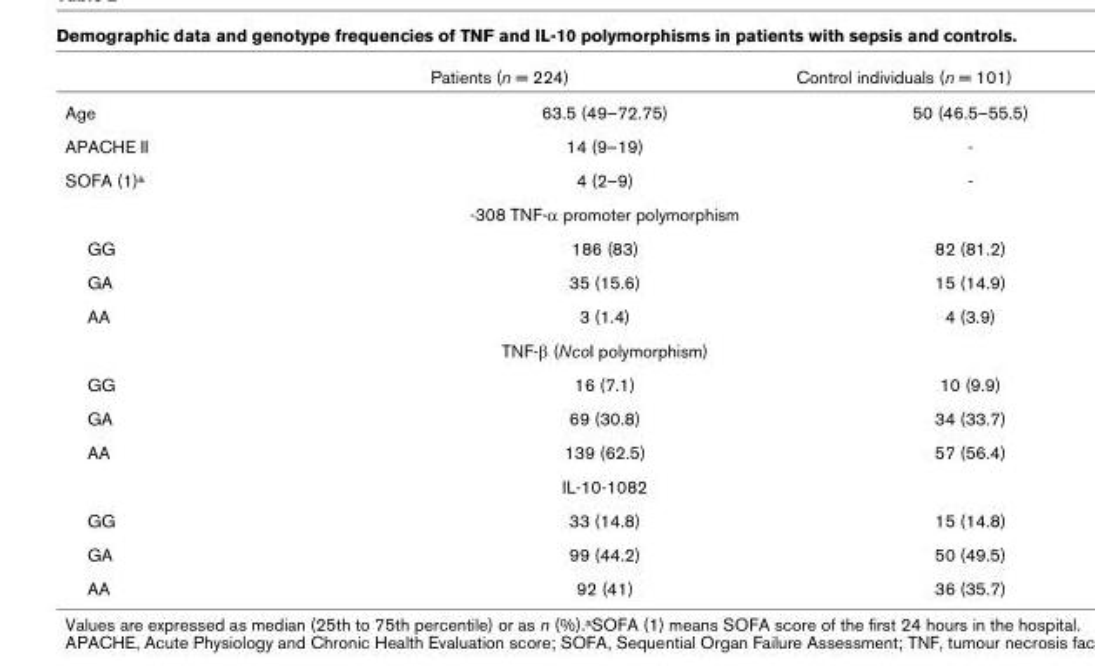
<table><thead><tr><td></td><td>Patients (n = 224)</td><td>Control individuals (n = 101)</td></tr></thead><tbody><tr><td>Age</td><td>63.5 (49–72.75)</td><td>50 (46.5–55.5)</td></tr><tr><td>APACHE II</td><td>14 (9–19)</td><td>-</td></tr><tr><td>SOFA (1)a</td><td>4 (2–9)</td><td>-</td></tr><tr><td colspan="3">-308 TNF-α promoter polymorphism</td></tr><tr><td>GG</td><td>186 (83)</td><td>82 (81.2)</td></tr><tr><td>GA</td><td>35 (15.6)</td><td>15 (14.9)</td></tr><tr><td>AA</td><td>3 (1.4)</td><td>4 (3.9)</td></tr><tr><td colspan="3">TNF-β (NcoI polymorphism)</td></tr><tr><td>GG</td><td>16 (7.1)</td><td>10 (9.9)</td></tr><tr><td>GA</td><td>69 (30.8)</td><td>34 (33.7)</td></tr><tr><td>AA</td><td>139 (62.5)</td><td>57 (56.4)</td></tr><tr><td colspan="3">IL-10-1082</td></tr><tr><td>GG</td><td>33 (14.8)</td><td>15 (14.8)</td></tr><tr><td>GA</td><td>99 (44.2)</td><td>50 (49.5)</td></tr><tr><td>AA</td><td>92 (41)</td><td>36 (35.7)</td></tr></tbody></table>